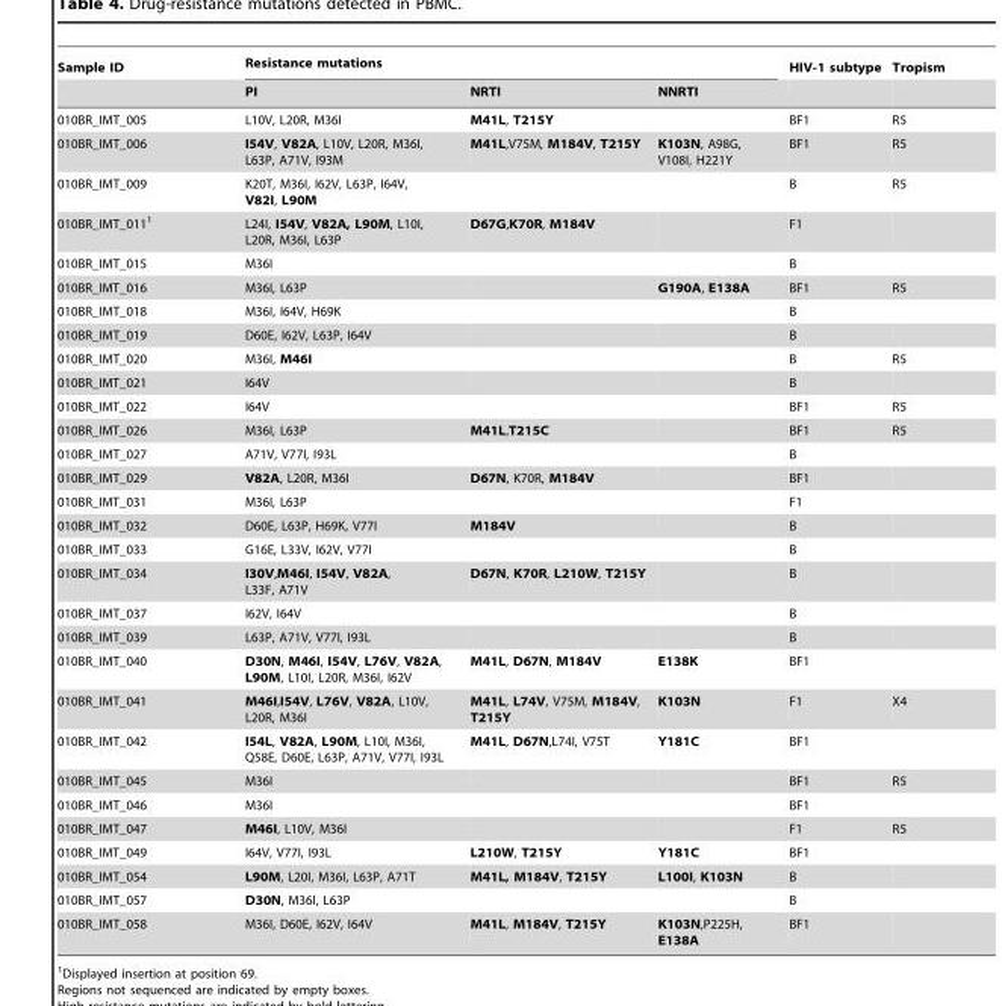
<table><thead><tr><td rowspan="2">Sample ID</td><td colspan="3">Resistance mutations</td><td rowspan="2">HIV-1 subtype</td><td rowspan="2">Tropism</td></tr><tr><td>PI</td><td>NRTI</td><td>NNRTI</td></tr></thead><tbody><tr><td>010BR_IMT_005</td><td>L10V, L20R, M36I</td><td>M41L, T215Y</td><td></td><td>BF1</td><td>R5</td></tr><tr><td>010BR_IMT_006</td><td>I54V, V82A, L10V, L20R, M36I, L63P, A71V, I93M</td><td>M41L,V75M, M184V, T215Y</td><td>K103N, A98G, V108I, H221Y</td><td>BF1</td><td>R5</td></tr><tr><td>010BR_IMT_009</td><td>K20T, M36I, I62V, L63P, I64V, V82I, L90M</td><td></td><td></td><td>B</td><td>R5</td></tr><tr><td>010BR_IMT_011<sup>1</sup></td><td>L24I, I54V, V82A, L90M, L10I, L20R, M36I, L63P</td><td>D67G,K70R, M184V</td><td></td><td>F1</td><td></td></tr><tr><td>010BR_IMT_015</td><td>M36I</td><td></td><td></td><td>B</td><td></td></tr><tr><td>010BR_IMT_016</td><td>M36I, L63P</td><td></td><td>G190A, E138A</td><td>BF1</td><td>R5</td></tr><tr><td>010BR_IMT_018</td><td>M36I, I64V, H69K</td><td></td><td></td><td>B</td><td></td></tr><tr><td>010BR_IMT_019</td><td>D60E, I62V, L63P, I64V</td><td></td><td></td><td>B</td><td></td></tr><tr><td>010BR_IMT_020</td><td>M36I, M46I</td><td></td><td></td><td>B</td><td>R5</td></tr><tr><td>010BR_IMT_021</td><td>I64V</td><td></td><td></td><td>B</td><td></td></tr><tr><td>010BR_IMT_022</td><td>I64V</td><td></td><td></td><td>BF1</td><td>R5</td></tr><tr><td>010BR_IMT_026</td><td>M36I, L63P</td><td>M41L,T215C</td><td></td><td>BF1</td><td>R5</td></tr><tr><td>010BR_IMT_027</td><td>A71V, V77I, I93L</td><td></td><td></td><td>B</td><td></td></tr><tr><td>010BR_IMT_029</td><td>V82A, L20R, M36I</td><td>D67N, K70R, M184V</td><td></td><td>BF1</td><td></td></tr><tr><td>010BR_IMT_031</td><td>M36I, L63P</td><td></td><td></td><td>F1</td><td></td></tr><tr><td>010BR_IMT_032</td><td>D60E, L63P, H69K, V77I</td><td>M184V</td><td></td><td>B</td><td></td></tr><tr><td>010BR_IMT_033</td><td>G16E, L33V, I62V, V77I</td><td></td><td></td><td>B</td><td></td></tr><tr><td>010BR_IMT_034</td><td>I30V,M46I, I54V, V82A, L33F, A71V</td><td>D67N, K70R, L210W, T215Y</td><td></td><td>B</td><td></td></tr><tr><td>010BR_IMT_037</td><td>I62V, I64V</td><td></td><td></td><td>B</td><td></td></tr><tr><td>010BR_IMT_039</td><td>L63P, A71V, V77I, I93L</td><td></td><td></td><td>B</td><td></td></tr><tr><td>010BR_IMT_040</td><td>D30N, M46I, I54V, L76V, V82A, L90M, L10I, L20R, M36I, I62V</td><td>M41L, D67N, M184V</td><td>E138K</td><td>BF1</td><td></td></tr><tr><td>010BR_IMT_041</td><td>M46I,I54V, L76V, V82A, L10V, L20R, M36I</td><td>M41L, L74V, V75M, M184V, T215Y</td><td>K103N</td><td>F1</td><td>X4</td></tr><tr><td>010BR_IMT_042</td><td>I54L, V82A, L90M, L10I, M36I, Q58E, D60E, L63P, A71V, V77I, I93L</td><td>M41L, D67N,L74I, V75T</td><td>Y181C</td><td>BF1</td><td></td></tr><tr><td>010BR_IMT_045</td><td>M36I</td><td></td><td></td><td>BF1</td><td>R5</td></tr><tr><td>010BR_IMT_046</td><td>M36I</td><td></td><td></td><td>BF1</td><td></td></tr><tr><td>010BR_IMT_047</td><td>M46I, L10V, M36I</td><td></td><td></td><td>F1</td><td>R5</td></tr><tr><td>010BR_IMT_049</td><td>I64V, V77I, I93L</td><td>L210W, T215Y</td><td>Y181C</td><td>BF1</td><td></td></tr><tr><td>010BR_IMT_054</td><td>L90M, L20I, M36I, L63P, A71T</td><td>M41L, M184V, T215Y</td><td>L100I, K103N</td><td>B</td><td></td></tr><tr><td>010BR_IMT_057</td><td>D30N, M36I, L63P</td><td></td><td></td><td>B</td><td></td></tr><tr><td>010BR_IMT_058</td><td>M36I, D60E, I62V, I64V</td><td>M41L, M184V, T215Y</td><td>K103N,P225H, E138A</td><td>BF1</td><td></td></tr></tbody></table>